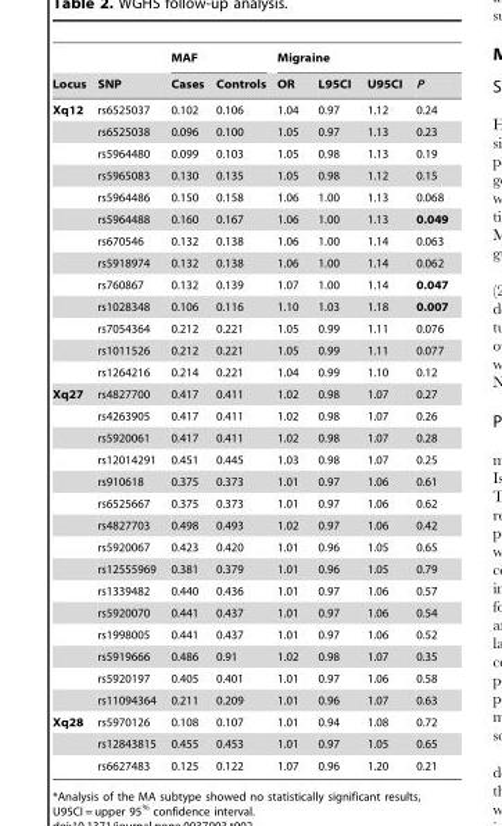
<table><thead><tr><td rowspan="2">Locus</td><td rowspan="2">SNP</td><td colspan="2">MAF</td><td colspan="4">Migraine</td></tr><tr><td>Cases</td><td>Controls</td><td>OR</td><td>L95CI</td><td>U95CI</td><td>P</td></tr></thead><tbody><tr><td rowspan="13">Xq12</td><td>rs6525037</td><td>0.102</td><td>0.106</td><td>1.04</td><td>0.97</td><td>1.12</td><td>0.24</td></tr><tr><td>rs6525038</td><td>0.096</td><td>0.100</td><td>1.05</td><td>0.97</td><td>1.13</td><td>0.23</td></tr><tr><td>rs5964480</td><td>0.099</td><td>0.103</td><td>1.05</td><td>0.98</td><td>1.13</td><td>0.19</td></tr><tr><td>rs5965083</td><td>0.130</td><td>0.135</td><td>1.05</td><td>0.98</td><td>1.12</td><td>0.15</td></tr><tr><td>rs5964486</td><td>0.150</td><td>0.158</td><td>1.06</td><td>1.00</td><td>1.13</td><td>0.068</td></tr><tr><td>rs5964488</td><td>0.160</td><td>0.167</td><td>1.06</td><td>1.00</td><td>1.13</td><td>0.049</td></tr><tr><td>rs670546</td><td>0.132</td><td>0.138</td><td>1.06</td><td>1.00</td><td>1.14</td><td>0.063</td></tr><tr><td>rs5918974</td><td>0.132</td><td>0.138</td><td>1.06</td><td>1.00</td><td>1.14</td><td>0.062</td></tr><tr><td>rs760867</td><td>0.132</td><td>0.139</td><td>1.07</td><td>1.00</td><td>1.14</td><td>0.047</td></tr><tr><td>rs1028348</td><td>0.106</td><td>0.116</td><td>1.10</td><td>1.03</td><td>1.18</td><td>0.007</td></tr><tr><td>rs7054364</td><td>0.212</td><td>0.221</td><td>1.05</td><td>0.99</td><td>1.11</td><td>0.076</td></tr><tr><td>rs1011526</td><td>0.212</td><td>0.221</td><td>1.05</td><td>0.99</td><td>1.11</td><td>0.077</td></tr><tr><td>rs1264216</td><td>0.214</td><td>0.221</td><td>1.04</td><td>0.99</td><td>1.10</td><td>0.12</td></tr><tr><td rowspan="15">Xq27</td><td>rs4827700</td><td>0.417</td><td>0.411</td><td>1.02</td><td>0.98</td><td>1.07</td><td>0.27</td></tr><tr><td>rs4263905</td><td>0.417</td><td>0.411</td><td>1.02</td><td>0.98</td><td>1.07</td><td>0.26</td></tr><tr><td>rs5920061</td><td>0.417</td><td>0.411</td><td>1.02</td><td>0.98</td><td>1.07</td><td>0.28</td></tr><tr><td>rs12014291</td><td>0.451</td><td>0.445</td><td>1.03</td><td>0.98</td><td>1.07</td><td>0.25</td></tr><tr><td>rs910618</td><td>0.375</td><td>0.373</td><td>1.01</td><td>0.97</td><td>1.06</td><td>0.61</td></tr><tr><td>rs6525667</td><td>0.375</td><td>0.373</td><td>1.01</td><td>0.97</td><td>1.06</td><td>0.62</td></tr><tr><td>rs4827703</td><td>0.498</td><td>0.493</td><td>1.02</td><td>0.97</td><td>1.06</td><td>0.42</td></tr><tr><td>rs5920067</td><td>0.423</td><td>0.420</td><td>1.01</td><td>0.96</td><td>1.05</td><td>0.65</td></tr><tr><td>rs12555969</td><td>0.381</td><td>0.379</td><td>1.01</td><td>0.96</td><td>1.05</td><td>0.79</td></tr><tr><td>rs1339482</td><td>0.440</td><td>0.436</td><td>1.01</td><td>0.97</td><td>1.06</td><td>0.57</td></tr><tr><td>rs5920070</td><td>0.441</td><td>0.437</td><td>1.01</td><td>0.97</td><td>1.06</td><td>0.54</td></tr><tr><td>rs1998005</td><td>0.441</td><td>0.437</td><td>1.01</td><td>0.97</td><td>1.06</td><td>0.52</td></tr><tr><td>rs5919666</td><td>0.486</td><td>0.91</td><td>1.02</td><td>0.98</td><td>1.07</td><td>0.35</td></tr><tr><td>rs5920197</td><td>0.405</td><td>0.401</td><td>1.01</td><td>0.97</td><td>1.06</td><td>0.58</td></tr><tr><td>rs11094364</td><td>0.211</td><td>0.209</td><td>1.01</td><td>0.96</td><td>1.07</td><td>0.63</td></tr><tr><td rowspan="3">Xq28</td><td>rs5970126</td><td>0.108</td><td>0.107</td><td>1.01</td><td>0.94</td><td>1.08</td><td>0.72</td></tr><tr><td>rs12843815</td><td>0.455</td><td>0.453</td><td>1.01</td><td>0.97</td><td>1.05</td><td>0.65</td></tr><tr><td>rs6627483</td><td>0.125</td><td>0.122</td><td>1.07</td><td>0.96</td><td>1.20</td><td>0.21</td></tr></tbody></table>